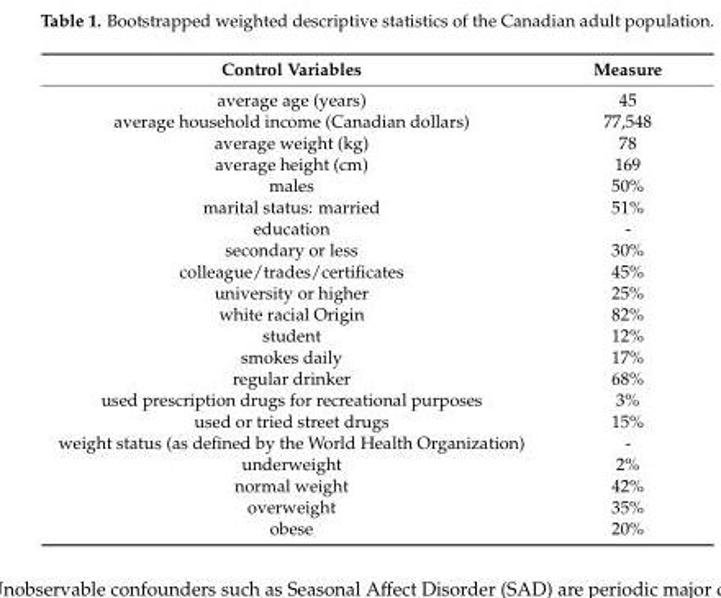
<table><thead><tr><td>Control Variables</td><td>Measure</td></tr></thead><tbody><tr><td>average age (years)</td><td>45</td></tr><tr><td>average household income (Canadian dollars)</td><td>77,548</td></tr><tr><td>average weight (kg)</td><td>78</td></tr><tr><td>average height (cm)</td><td>169</td></tr><tr><td>males</td><td>50%</td></tr><tr><td>marital status: married</td><td>51%</td></tr><tr><td>education</td><td>-</td></tr><tr><td>secondary or less</td><td>30%</td></tr><tr><td>colleague/trades/certificates</td><td>45%</td></tr><tr><td>university or higher</td><td>25%</td></tr><tr><td>white racial Origin</td><td>82%</td></tr><tr><td>student</td><td>12%</td></tr><tr><td>smokes daily</td><td>17%</td></tr><tr><td>regular drinker</td><td>68%</td></tr><tr><td>used prescription drugs for recreational purposes</td><td>3%</td></tr><tr><td>used or tried street drugs</td><td>15%</td></tr><tr><td>weight status (as defined by the World Health Organization)</td><td>-</td></tr><tr><td>underweight</td><td>2%</td></tr><tr><td>normal weight</td><td>42%</td></tr><tr><td>overweight</td><td>35%</td></tr><tr><td>obese</td><td>20%</td></tr></tbody></table>